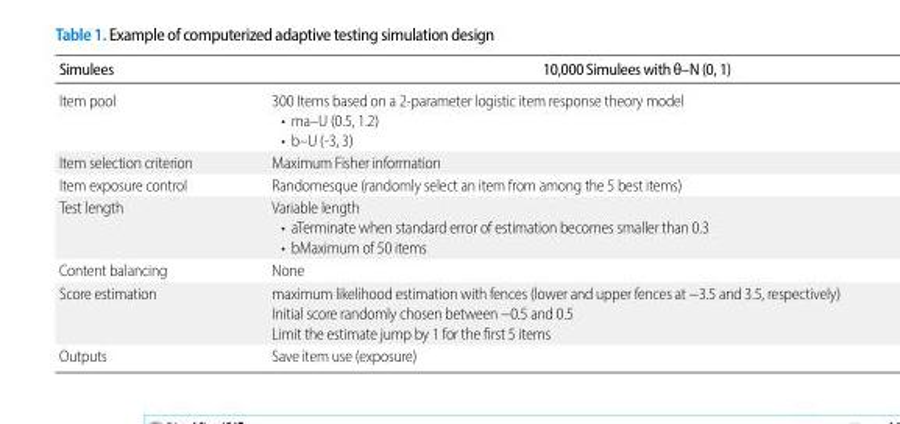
<table><thead><tr><td>Simulees</td><td>10,000 Simulees with θ–N (0, 1)</td></tr></thead><tbody><tr><td rowspan="3">Item pool</td><td>300 Items based on a 2-parameter logistic item response theory model</td></tr><tr><td>• ma–U (0.5, 1.2)</td></tr><tr><td>• b–U (-3, 3)</td></tr><tr><td>Item selection criterion</td><td>Maximum Fisher information</td></tr><tr><td>Item exposure control</td><td>Randomesque (randomly select an item from among the 5 best items)</td></tr><tr><td rowspan="3">Test length</td><td>Variable length</td></tr><tr><td>• aTerminate when standard error of estimation becomes smaller than 0.3</td></tr><tr><td>• bMaximum of 50 items</td></tr><tr><td>Content balancing</td><td>None</td></tr><tr><td rowspan="3">Score estimation</td><td>maximum likelihood estimation with fences (lower and upper fences at −3.5 and 3.5, respectively)</td></tr><tr><td>Initial score randomly chosen between −0.5 and 0.5</td></tr><tr><td>Limit the estimate jump by 1 for the first 5 items</td></tr><tr><td>Outputs</td><td>Save item use (exposure)</td></tr></tbody></table>